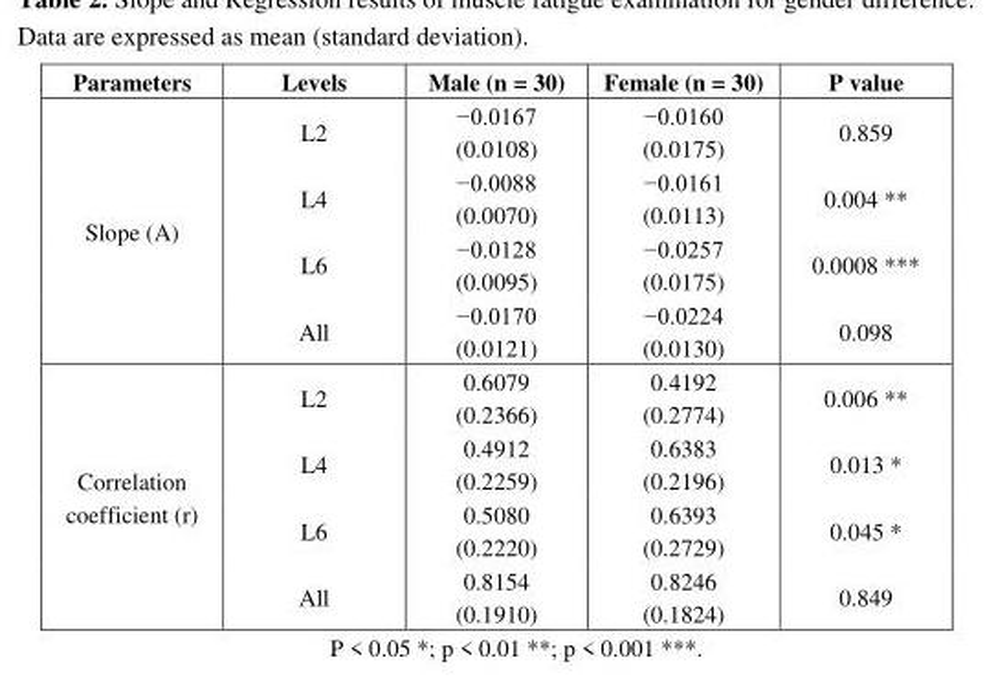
<table><thead><tr><td>Parameters</td><td>Levels</td><td>Male (n = 30)</td><td>Female (n = 30)</td><td>P value</td></tr></thead><tbody><tr><td rowspan="4">Slope (A)</td><td>L2</td><td>−0.0167 (0.0108)</td><td>−0.0160 (0.0175)</td><td>0.859</td></tr><tr><td>L4</td><td>−0.0088 (0.0070)</td><td>−0.0161 (0.0113)</td><td>0.004 **</td></tr><tr><td>L6</td><td>−0.0128 (0.0095)</td><td>−0.0257 (0.0175)</td><td>0.0008 ***</td></tr><tr><td>All</td><td>−0.0170 (0.0121)</td><td>−0.0224 (0.0130)</td><td>0.098</td></tr><tr><td rowspan="4">Correlation coefficient (r)</td><td>L2</td><td>0.6079 (0.2366)</td><td>0.4192 (0.2774)</td><td>0.006 **</td></tr><tr><td>L4</td><td>0.4912 (0.2259)</td><td>0.6383 (0.2196)</td><td>0.013 *</td></tr><tr><td>L6</td><td>0.5080 (0.2220)</td><td>0.6393 (0.2729)</td><td>0.045 *</td></tr><tr><td>All</td><td>0.8154 (0.1910)</td><td>0.8246 (0.1824)</td><td>0.849</td></tr></tbody></table>